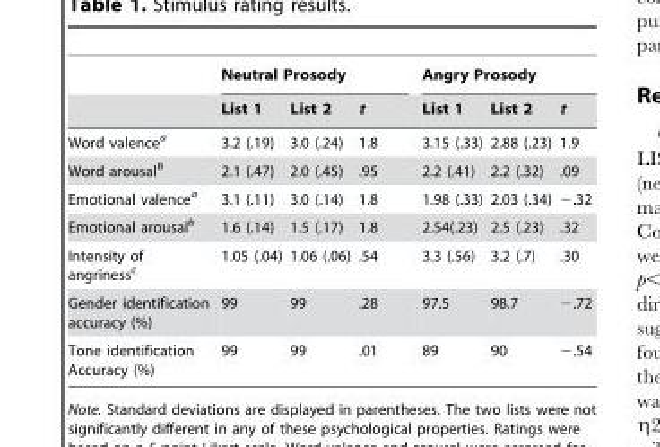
<table><thead><tr><td rowspan="2"></td><td colspan="3">Neutral Prosody</td><td colspan="3">Angry Prosody</td></tr><tr><td>List 1</td><td>List 2</td><td>t</td><td>List 1</td><td>List 2</td><td>t</td></tr></thead><tbody><tr><td>Word valence<sup>a</sup></td><td>3.2 (.19)</td><td>3.0 (.24)</td><td>1.8</td><td>3.15 (.33)</td><td>2.88 (.23)</td><td>1.9</td></tr><tr><td>Word arousal<sup>b</sup></td><td>2.1 (.47)</td><td>2.0 (.45)</td><td>.95</td><td>2.2 (.41)</td><td>2.2 (.32)</td><td>.09</td></tr><tr><td>Emotional valence<sup>a</sup></td><td>3.1 (.11)</td><td>3.0 (.14)</td><td>1.8</td><td>1.98 (.33)</td><td>2.03 (.34)</td><td>−.32</td></tr><tr><td>Emotional arousal<sup>b</sup></td><td>1.6 (.14)</td><td>1.5 (.17)</td><td>1.8</td><td>2.54(.23)</td><td>2.5 (.23)</td><td>.32</td></tr><tr><td>Intensity of angriness<sup>c</sup></td><td>1.05 (.04)</td><td>1.06 (.06)</td><td>.54</td><td>3.3 (.56)</td><td>3.2 (.7)</td><td>.30</td></tr><tr><td>Gender identification accuracy (%)</td><td>99</td><td>99</td><td>.28</td><td>97.5</td><td>98.7</td><td>−.72</td></tr><tr><td>Tone identification Accuracy (%)</td><td>99</td><td>99</td><td>.01</td><td>89</td><td>90</td><td>−.54</td></tr></tbody></table>